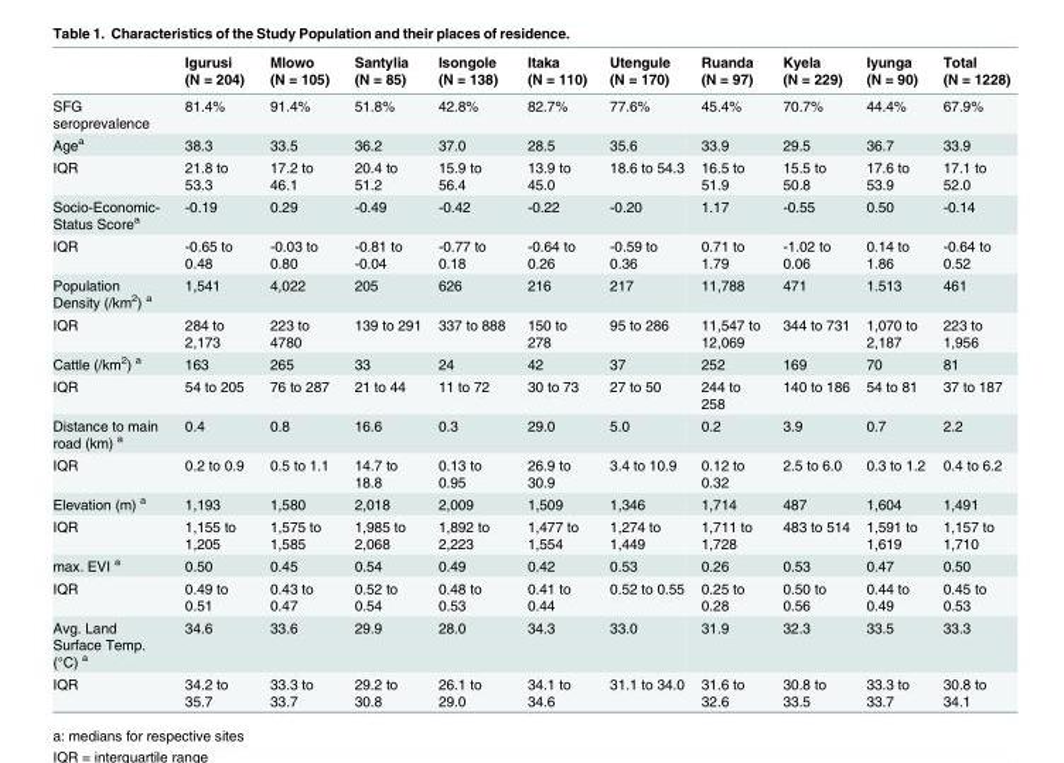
<table><thead><tr><td></td><td>Igurusi (N = 204)</td><td>Mlowo (N = 105)</td><td>Santylia (N = 85)</td><td>Isongole (N = 138)</td><td>Itaka (N = 110)</td><td>Utengule (N = 170)</td><td>Ruanda (N = 97)</td><td>Kyela (N = 229)</td><td>Iyunga (N = 90)</td><td>Total (N = 1228)</td></tr></thead><tbody><tr><td>SFG seroprevalence</td><td>81.4%</td><td>91.4%</td><td>51.8%</td><td>42.8%</td><td>82.7%</td><td>77.6%</td><td>45.4%</td><td>70.7%</td><td>44.4%</td><td>67.9%</td></tr><tr><td>Age<sup>a</sup></td><td>38.3</td><td>33.5</td><td>36.2</td><td>37.0</td><td>28.5</td><td>35.6</td><td>33.9</td><td>29.5</td><td>36.7</td><td>33.9</td></tr><tr><td>IQR</td><td>21.8 to 53.3</td><td>17.2 to 46.1</td><td>20.4 to 51.2</td><td>15.9 to 56.4</td><td>13.9 to 45.0</td><td>18.6 to 54.3</td><td>16.5 to 51.9</td><td>15.5 to 50.8</td><td>17.6 to 53.9</td><td>17.1 to 52.0</td></tr><tr><td>Socio-Economic- Status Score<sup>a</sup></td><td>-0.19</td><td>0.29</td><td>-0.49</td><td>-0.42</td><td>-0.22</td><td>-0.20</td><td>1.17</td><td>-0.55</td><td>0.50</td><td>-0.14</td></tr><tr><td>IQR</td><td>-0.65 to 0.48</td><td>-0.03 to 0.80</td><td>-0.81 to -0.04</td><td>-0.77 to 0.18</td><td>-0.64 to 0.26</td><td>-0.59 to 0.36</td><td>0.71 to 1.79</td><td>-1.02 to 0.06</td><td>0.14 to 1.86</td><td>-0.64 to 0.52</td></tr><tr><td>Population Density (/km<sup>2</sup>) <sup>a</sup></td><td>1,541</td><td>4,022</td><td>205</td><td>626</td><td>216</td><td>217</td><td>11,788</td><td>471</td><td>1.513</td><td>461</td></tr><tr><td>IQR</td><td>284 to 2,173</td><td>223 to 4780</td><td>139 to 291</td><td>337 to 888</td><td>150 to 278</td><td>95 to 286</td><td>11,547 to 12,069</td><td>344 to 731</td><td>1,070 to 2,187</td><td>223 to 1,956</td></tr><tr><td>Cattle (/km<sup>2</sup>) <sup>a</sup></td><td>163</td><td>265</td><td>33</td><td>24</td><td>42</td><td>37</td><td>252</td><td>169</td><td>70</td><td>81</td></tr><tr><td>IQR</td><td>54 to 205</td><td>76 to 287</td><td>21 to 44</td><td>11 to 72</td><td>30 to 73</td><td>27 to 50</td><td>244 to 258</td><td>140 to 186</td><td>54 to 81</td><td>37 to 187</td></tr><tr><td>Distance to main road (km) <sup>a</sup></td><td>0.4</td><td>0.8</td><td>16.6</td><td>0.3</td><td>29.0</td><td>5.0</td><td>0.2</td><td>3.9</td><td>0.7</td><td>2.2</td></tr><tr><td>IQR</td><td>0.2 to 0.9</td><td>0.5 to 1.1</td><td>14.7 to 18.8</td><td>0.13 to 0.95</td><td>26.9 to 30.9</td><td>3.4 to 10.9</td><td>0.12 to 0.32</td><td>2.5 to 6.0</td><td>0.3 to 1.2</td><td>0.4 to 6.2</td></tr><tr><td>Elevation (m) <sup>a</sup></td><td>1,193</td><td>1,580</td><td>2,018</td><td>2,009</td><td>1,509</td><td>1,346</td><td>1,714</td><td>487</td><td>1,604</td><td>1,491</td></tr><tr><td>IQR</td><td>1,155 to 1,205</td><td>1,575 to 1,585</td><td>1,985 to 2,068</td><td>1,892 to 2,223</td><td>1,477 to 1,554</td><td>1,274 to 1,449</td><td>1,711 to 1,728</td><td>483 to 514</td><td>1,591 to 1,619</td><td>1,157 to 1,710</td></tr><tr><td>max. EVI <sup>a</sup></td><td>0.50</td><td>0.45</td><td>0.54</td><td>0.49</td><td>0.42</td><td>0.53</td><td>0.26</td><td>0.53</td><td>0.47</td><td>0.50</td></tr><tr><td>IQR</td><td>0.49 to 0.51</td><td>0.43 to 0.47</td><td>0.52 to 0.54</td><td>0.48 to 0.53</td><td>0.41 to 0.44</td><td>0.52 to 0.55</td><td>0.25 to 0.28</td><td>0.50 to 0.56</td><td>0.44 to 0.49</td><td>0.45 to 0.53</td></tr><tr><td>Avg. Land Surface Temp. (°C) <sup>a</sup></td><td>34.6</td><td>33.6</td><td>29.9</td><td>28.0</td><td>34.3</td><td>33.0</td><td>31.9</td><td>32.3</td><td>33.5</td><td>33.3</td></tr><tr><td>IQR</td><td>34.2 to 35.7</td><td>33.3 to 33.7</td><td>29.2 to 30.8</td><td>26.1 to 29.0</td><td>34.1 to 34.6</td><td>31.1 to 34.0</td><td>31.6 to 32.6</td><td>30.8 to 33.5</td><td>33.3 to 33.7</td><td>30.8 to 34.1</td></tr></tbody></table>